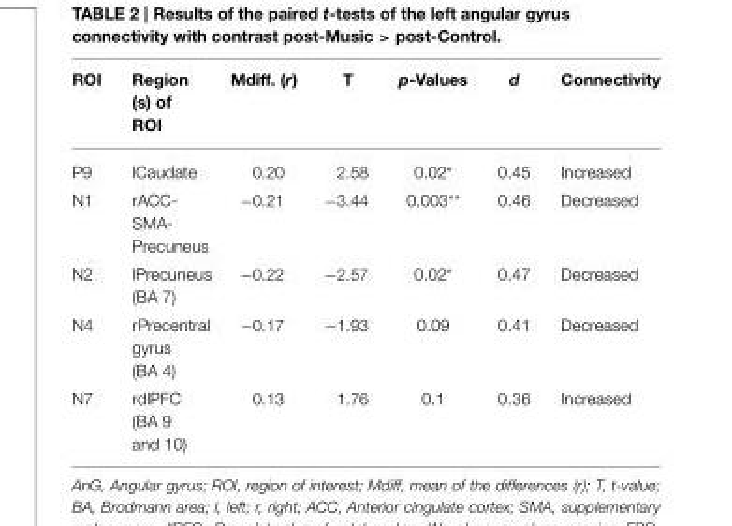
<table><thead><tr><td>ROI</td><td>Region (s) of ROI</td><td>Mdiff. (r)</td><td>T</td><td>p-Values</td><td>d</td><td>Connectivity</td></tr></thead><tbody><tr><td>P9</td><td>lCaudate</td><td>0.20</td><td>2.58</td><td>0.02*</td><td>0.45</td><td>Increased</td></tr><tr><td>N1</td><td>rACC- SMA- Precuneus</td><td>−0.21</td><td>−3.44</td><td>0.003**</td><td>0.46</td><td>Decreased</td></tr><tr><td>N2</td><td>lPrecuneus (BA 7)</td><td>−0.22</td><td>−2.57</td><td>0.02*</td><td>0.47</td><td>Decreased</td></tr><tr><td>N4</td><td>rPrecentral gyrus (BA 4)</td><td>−0.17</td><td>−1.93</td><td>0.09</td><td>0.41</td><td>Decreased</td></tr><tr><td>N7</td><td>rdlPFC (BA 9 and 10)</td><td>0.13</td><td>1.76</td><td>0.1</td><td>0.36</td><td>Increased</td></tr></tbody></table>